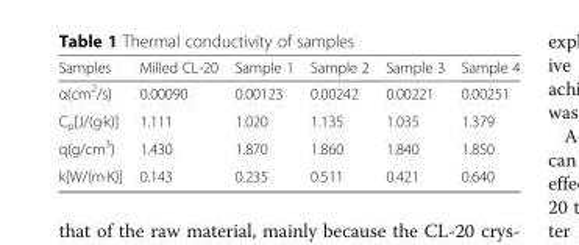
<table><thead><tr><td>Samples</td><td>Milled CL-20</td><td>Sample 1</td><td>Sample 2</td><td>Sample 3</td><td>Sample 4</td></tr></thead><tbody><tr><td>α(cm<sup>2</sup>/s)</td><td>0.00090</td><td>0.00123</td><td>0.00242</td><td>0.00221</td><td>0.00251</td></tr><tr><td>C<sub>p</sub>[J/(g·k)]</td><td>1.111</td><td>1.020</td><td>1.135</td><td>1.035</td><td>1.379</td></tr><tr><td>q(g/cm<sup>3</sup>)</td><td>1.430</td><td>1.870</td><td>1.860</td><td>1.840</td><td>1.850</td></tr><tr><td>k[W/(m·K)]</td><td>0.143</td><td>0.235</td><td>0.511</td><td>0.421</td><td>0.640</td></tr></tbody></table>